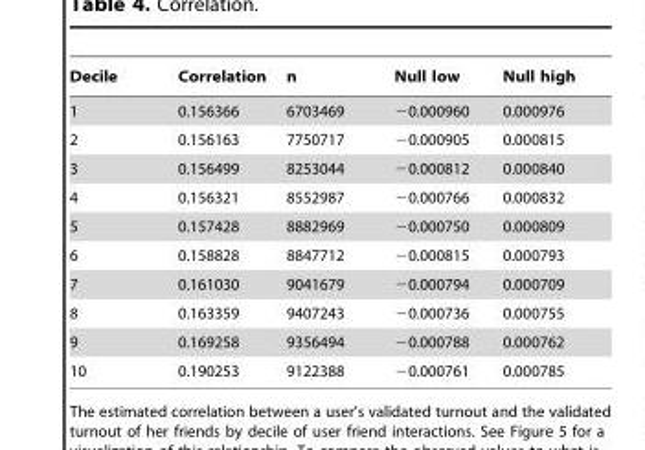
<table><thead><tr><td>Decile</td><td>Correlation</td><td>n</td><td>Null low</td><td>Null high</td></tr></thead><tbody><tr><td>1</td><td>0.156366</td><td>6703469</td><td>−0.000960</td><td>0.000976</td></tr><tr><td>2</td><td>0.156163</td><td>7750717</td><td>−0.000905</td><td>0.000815</td></tr><tr><td>3</td><td>0.156499</td><td>8253044</td><td>−0.000812</td><td>0.000840</td></tr><tr><td>4</td><td>0.156321</td><td>8552987</td><td>−0.000766</td><td>0.000832</td></tr><tr><td>5</td><td>0.157428</td><td>8882969</td><td>−0.000750</td><td>0.000809</td></tr><tr><td>6</td><td>0.158828</td><td>8847712</td><td>−0.000815</td><td>0.000793</td></tr><tr><td>7</td><td>0.161030</td><td>9041679</td><td>−0.000794</td><td>0.000709</td></tr><tr><td>8</td><td>0.163359</td><td>9407243</td><td>−0.000736</td><td>0.000755</td></tr><tr><td>9</td><td>0.169258</td><td>9356494</td><td>−0.000788</td><td>0.000762</td></tr><tr><td>10</td><td>0.190253</td><td>9122388</td><td>−0.000761</td><td>0.000785</td></tr></tbody></table>